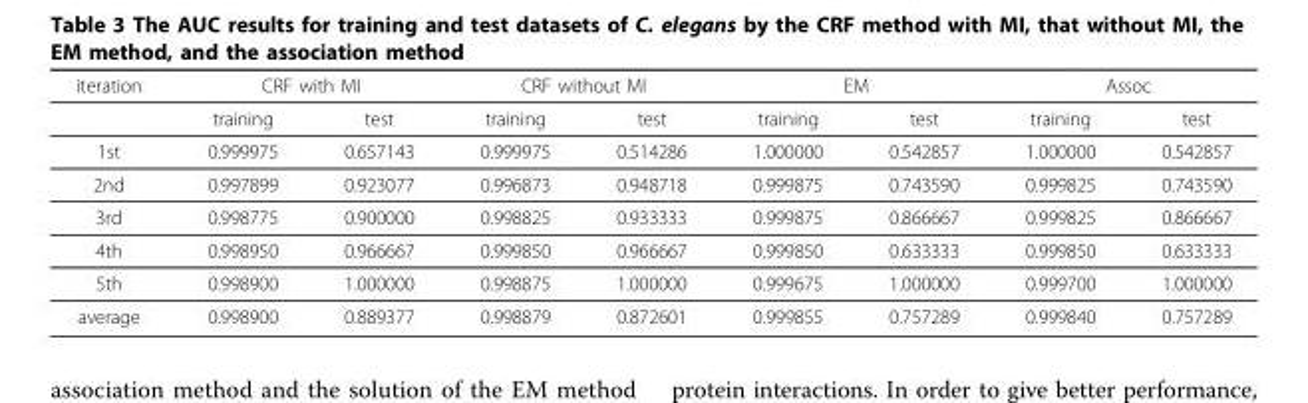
<table><thead><tr><td rowspan="2">iteration</td><td colspan="2">CRF with MI</td><td colspan="2">CRF without MI</td><td colspan="2">EM</td><td colspan="2">Assoc</td></tr><tr><td>training</td><td>test</td><td>training</td><td>test</td><td>training</td><td>test</td><td>training</td><td>test</td></tr></thead><tbody><tr><td>1st</td><td>0.999975</td><td>0.657143</td><td>0.999975</td><td>0.514286</td><td>1.000000</td><td>0.542857</td><td>1.000000</td><td>0.542857</td></tr><tr><td>2nd</td><td>0.997899</td><td>0.923077</td><td>0.996873</td><td>0.948718</td><td>0.999875</td><td>0.743590</td><td>0.999825</td><td>0.743590</td></tr><tr><td>3rd</td><td>0.998775</td><td>0.900000</td><td>0.998825</td><td>0.933333</td><td>0.999875</td><td>0.866667</td><td>0.999825</td><td>0.866667</td></tr><tr><td>4th</td><td>0.998950</td><td>0.966667</td><td>0.999850</td><td>0.966667</td><td>0.999850</td><td>0.633333</td><td>0.999850</td><td>0.633333</td></tr><tr><td>5th</td><td>0.998900</td><td>1.000000</td><td>0.998875</td><td>1.000000</td><td>0.999675</td><td>1.000000</td><td>0.999700</td><td>1.000000</td></tr><tr><td>average</td><td>0.998900</td><td>0.889377</td><td>0.998879</td><td>0.872601</td><td>0.999855</td><td>0.757289</td><td>0.999840</td><td>0.757289</td></tr></tbody></table>